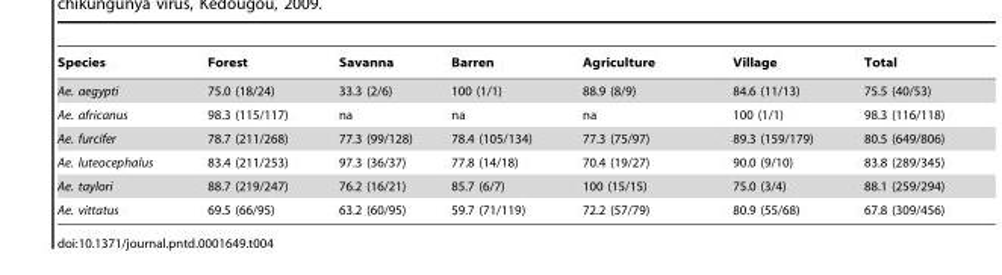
<table><thead><tr><td>Species</td><td>Forest</td><td>Savanna</td><td>Barren</td><td>Agriculture</td><td>Village</td><td>Total</td></tr></thead><tbody><tr><td>Ae. aegypti</td><td>75.0 (18/24)</td><td>33.3 (2/6)</td><td>100 (1/1)</td><td>88.9 (8/9)</td><td>84.6 (11/13)</td><td>75.5 (40/53)</td></tr><tr><td>Ae. africanus</td><td>98.3 (115/117)</td><td>na</td><td>na</td><td>na</td><td>100 (1/1)</td><td>98.3 (116/118)</td></tr><tr><td>Ae. furcifer</td><td>78.7 (211/268)</td><td>77.3 (99/128)</td><td>78.4 (105/134)</td><td>77.3 (75/97)</td><td>89.3 (159/179)</td><td>80.5 (649/806)</td></tr><tr><td>Ae. luteocephalus</td><td>83.4 (211/253)</td><td>97.3 (36/37)</td><td>77.8 (14/18)</td><td>70.4 (19/27)</td><td>90.0 (9/10)</td><td>83.8 (289/345)</td></tr><tr><td>Ae. taylori</td><td>88.7 (219/247)</td><td>76.2 (16/21)</td><td>85.7 (6/7)</td><td>100 (15/15)</td><td>75.0 (3/4)</td><td>88.1 (259/294)</td></tr><tr><td>Ae. vittatus</td><td>69.5 (66/95)</td><td>63.2 (60/95)</td><td>59.7 (71/119)</td><td>72.2 (57/79)</td><td>80.9 (55/68)</td><td>67.8 (309/456)</td></tr></tbody></table>